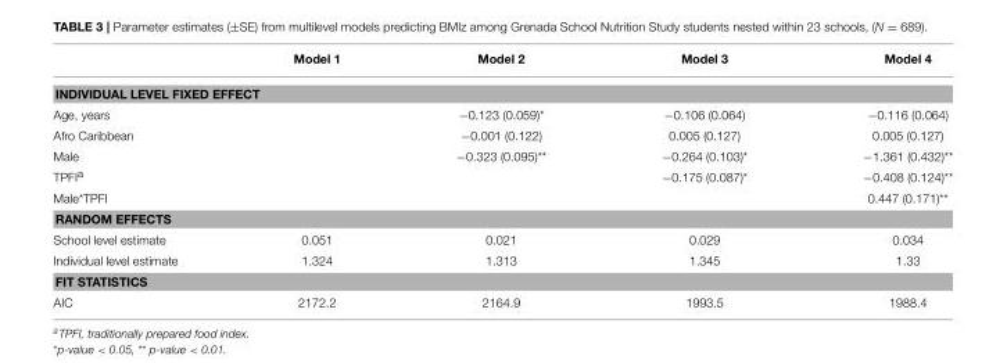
<table><thead><tr><td></td><td>Model 1</td><td>Model 2</td><td>Model 3</td><td>Model 4</td></tr></thead><tbody><tr><td colspan="5">INDIVIDUAL LEVEL FIXED EFFECT</td></tr><tr><td>Age, years</td><td></td><td>−0.123 (0.059)*</td><td>−0.106 (0.064)</td><td>−0.116 (0.064)</td></tr><tr><td>Afro Caribbean</td><td></td><td>−0.001 (0.122)</td><td>0.005 (0.127)</td><td>0.005 (0.127)</td></tr><tr><td>Male</td><td></td><td>−0.323 (0.095)**</td><td>−0.264 (0.103)*</td><td>−1.361 (0.432)**</td></tr><tr><td>TPFI<sup>a</sup></td><td></td><td></td><td>−0.175 (0.087)*</td><td>−0.408 (0.124)**</td></tr><tr><td>Male*TPFI</td><td></td><td></td><td></td><td>0.447 (0.171)**</td></tr><tr><td colspan="5">RANDOM EFFECTS</td></tr><tr><td>School level estimate</td><td>0.051</td><td>0.021</td><td>0.029</td><td>0.034</td></tr><tr><td>Individual level estimate</td><td>1.324</td><td>1.313</td><td>1.345</td><td>1.33</td></tr><tr><td colspan="5">FIT STATISTICS</td></tr><tr><td>AIC</td><td>2172.2</td><td>2164.9</td><td>1993.5</td><td>1988.4</td></tr></tbody></table>